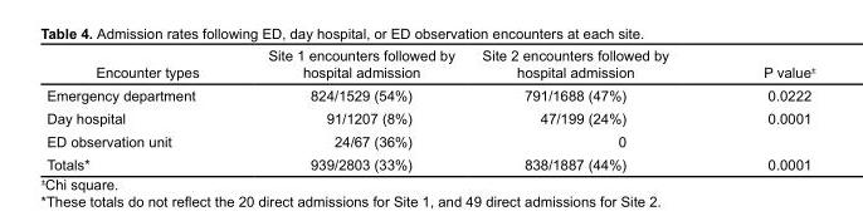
<table><thead><tr><td>Encounter types</td><td>Site 1 encounters followed by hospital admission</td><td>Site 2 encounters followed by hospital admission</td><td>P value±</td></tr></thead><tbody><tr><td>Emergency department</td><td>824/1529 (54%)</td><td>791/1688 (47%)</td><td>0.0222</td></tr><tr><td>Day hospital</td><td>91/1207 (8%)</td><td>47/199 (24%)</td><td>0.0001</td></tr><tr><td>ED observation unit</td><td>24/67 (36%)</td><td>0</td><td></td></tr><tr><td>Totals*</td><td>939/2803 (33%)</td><td>838/1887 (44%)</td><td>0.0001</td></tr></tbody></table>